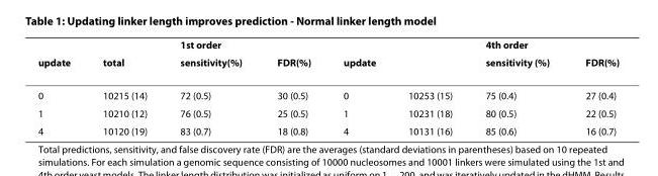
<table><thead><tr><td rowspan="2">update</td><td rowspan="2">total</td><td rowspan="2">1st order sensitivity(%)</td><td rowspan="2">FDR(%)</td><td rowspan="2">update</td><td rowspan="2"></td><td rowspan="2">4th order sensitivity (%)</td><td rowspan="2">FDR(%)</td></tr><tr></tr></thead><tbody><tr><td>0</td><td>10215 (14)</td><td>72 (0.5)</td><td>30 (0.5)</td><td>0</td><td>10253 (15)</td><td>75 (0.4)</td><td>27 (0.4)</td></tr><tr><td>1</td><td>10210 (12)</td><td>76 (0.5)</td><td>25 (0.5)</td><td>1</td><td>10231 (18)</td><td>80 (0.5)</td><td>22 (0.5)</td></tr><tr><td>4</td><td>10120 (19)</td><td>83 (0.7)</td><td>18 (0.8)</td><td>4</td><td>10131 (16)</td><td>85 (0.6)</td><td>16 (0.7)</td></tr></tbody></table>